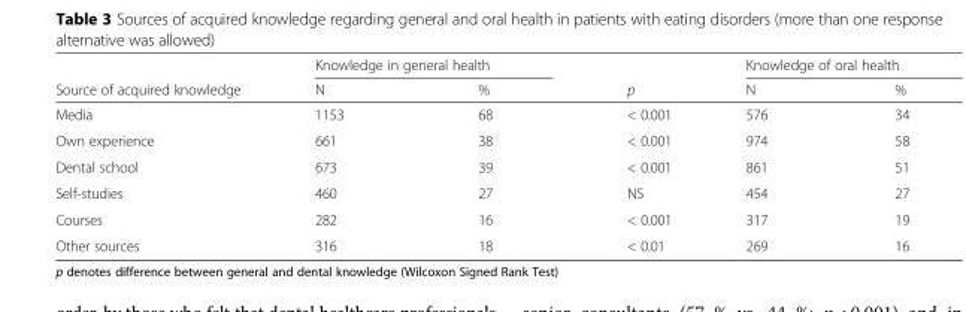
<table><thead><tr><td rowspan="2">Source of acquired knowledge</td><td colspan="2">Knowledge in general health</td><td rowspan="2">p</td><td colspan="2">Knowledge of oral health</td></tr><tr><td>N</td><td>%</td><td>N</td><td>%</td></tr></thead><tbody><tr><td>Media</td><td>1153</td><td>68</td><td>&lt; 0.001</td><td>576</td><td>34</td></tr><tr><td>Own experience</td><td>661</td><td>38</td><td>&lt; 0.001</td><td>974</td><td>58</td></tr><tr><td>Dental school</td><td>673</td><td>39</td><td>&lt; 0.001</td><td>861</td><td>51</td></tr><tr><td>Self-studies</td><td>460</td><td>27</td><td>NS</td><td>454</td><td>27</td></tr><tr><td>Courses</td><td>282</td><td>16</td><td>&lt; 0.001</td><td>317</td><td>19</td></tr><tr><td>Other sources</td><td>316</td><td>18</td><td>&lt; 0.01</td><td>269</td><td>16</td></tr></tbody></table>